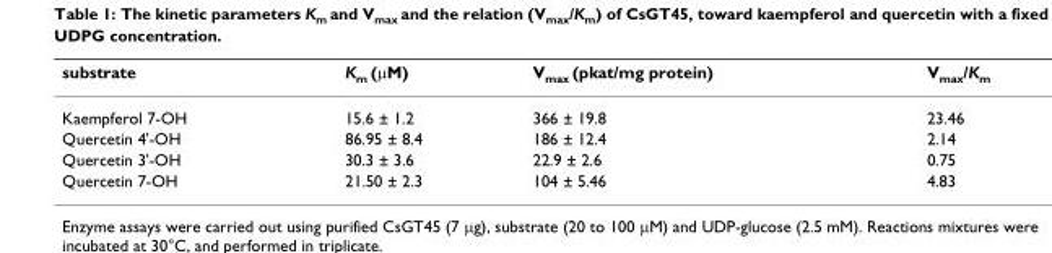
<table><thead><tr><td>substrate</td><td>K<sub>m</sub> (μM)</td><td>V<sub>max</sub> (pkat/mg protein)</td><td>V<sub>max</sub>/K<sub>m</sub></td></tr></thead><tbody><tr><td>Kaempferol 7-OH</td><td>15.6 ± 1.2</td><td>366 ± 19.8</td><td>23.46</td></tr><tr><td>Quercetin 4&#x27;-OH</td><td>86.95 ± 8.4</td><td>186 ± 12.4</td><td>2.14</td></tr><tr><td>Quercetin 3&#x27;-OH</td><td>30.3 ± 3.6</td><td>22.9 ± 2.6</td><td>0.75</td></tr><tr><td>Quercetin 7-OH</td><td>21.50 ± 2.3</td><td>104 ± 5.46</td><td>4.83</td></tr></tbody></table>